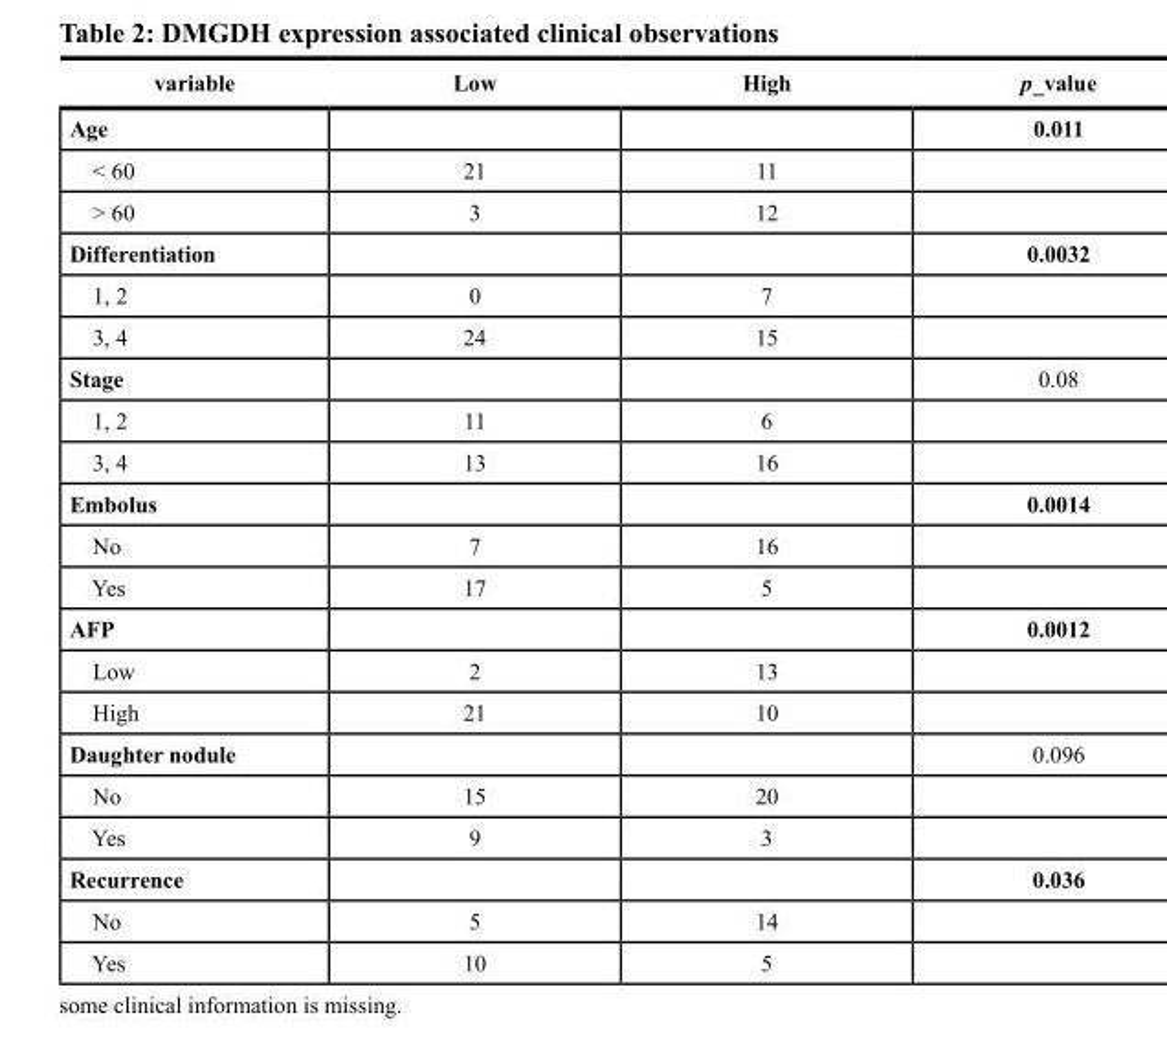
<table><thead><tr><td>variable</td><td>Low</td><td>High</td><td>p_value</td></tr></thead><tbody><tr><td>Age</td><td></td><td></td><td>0.011</td></tr><tr><td>&lt; 60</td><td>21</td><td>11</td><td></td></tr><tr><td>&gt; 60</td><td>3</td><td>12</td><td></td></tr><tr><td>Differentiation</td><td></td><td></td><td>0.0032</td></tr><tr><td>1, 2</td><td>0</td><td>7</td><td></td></tr><tr><td>3, 4</td><td>24</td><td>15</td><td></td></tr><tr><td>Stage</td><td></td><td></td><td>0.08</td></tr><tr><td>1, 2</td><td>11</td><td>6</td><td></td></tr><tr><td>3, 4</td><td>13</td><td>16</td><td></td></tr><tr><td>Embolus</td><td></td><td></td><td>0.0014</td></tr><tr><td>No</td><td>7</td><td>16</td><td></td></tr><tr><td>Yes</td><td>17</td><td>5</td><td></td></tr><tr><td>AFP</td><td></td><td></td><td>0.0012</td></tr><tr><td>Low</td><td>2</td><td>13</td><td></td></tr><tr><td>High</td><td>21</td><td>10</td><td></td></tr><tr><td>Daughter nodule</td><td></td><td></td><td>0.096</td></tr><tr><td>No</td><td>15</td><td>20</td><td></td></tr><tr><td>Yes</td><td>9</td><td>3</td><td></td></tr><tr><td>Recurrence</td><td></td><td></td><td>0.036</td></tr><tr><td>No</td><td>5</td><td>14</td><td></td></tr><tr><td>Yes</td><td>10</td><td>5</td><td></td></tr></tbody></table>